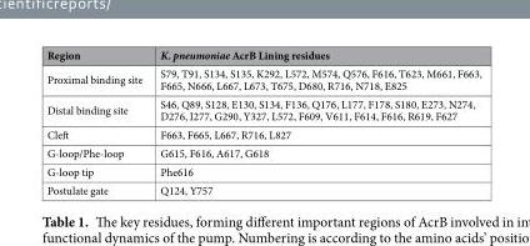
<table><thead><tr><td>Region</td><td>K. pneumoniae AcrB Lining residues</td></tr></thead><tbody><tr><td>Proximal binding site</td><td>S79, T91, S134, S135, K292, L572, M574, Q576, F616, T623, M661, F663, F665, N666, L667, L673, T675, D680, R716, N718, E825</td></tr><tr><td>Distal binding site</td><td>S46, Q89, S128, E130, S134, F136, Q176, L177, F178, S180, E273, N274, D276, I277, G290, Y327, L572, F609, V611, F614, F616, R619, F627</td></tr><tr><td>Cleft</td><td>F663, F665, L667, R716, L827</td></tr><tr><td>G-loop/Phe-loop</td><td>G615, F616, A617, G618</td></tr><tr><td>G-loop tip</td><td>Phe616</td></tr><tr><td>Postulate gate</td><td>Q124, Y757</td></tr></tbody></table>